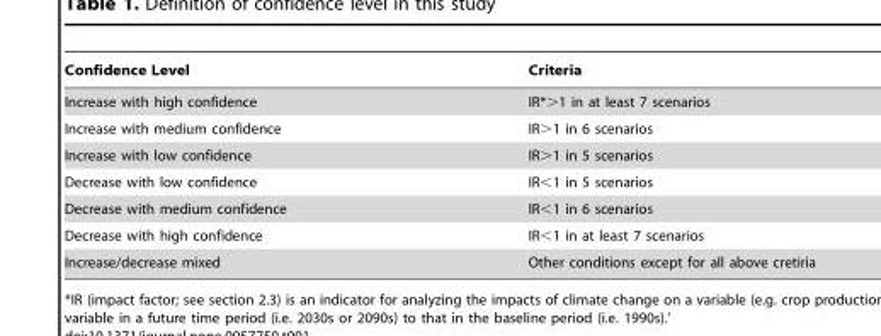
<table><thead><tr><td>Confidence Level</td><td>Criteria</td></tr></thead><tbody><tr><td>Increase with high confidence</td><td>IR*&gt;1 in at least 7 scenarios</td></tr><tr><td>Increase with medium confidence</td><td>IR&gt;1 in 6 scenarios</td></tr><tr><td>Increase with low confidence</td><td>IR&gt;1 in 5 scenarios</td></tr><tr><td>Decrease with low confidence</td><td>IR&lt;1 in 5 scenarios</td></tr><tr><td>Decrease with medium confidence</td><td>IR&lt;1 in 6 scenarios</td></tr><tr><td>Decrease with high confidence</td><td>IR&lt;1 in at least 7 scenarios</td></tr><tr><td>Increase/decrease mixed</td><td>Other conditions except for all above cretiria</td></tr></tbody></table>